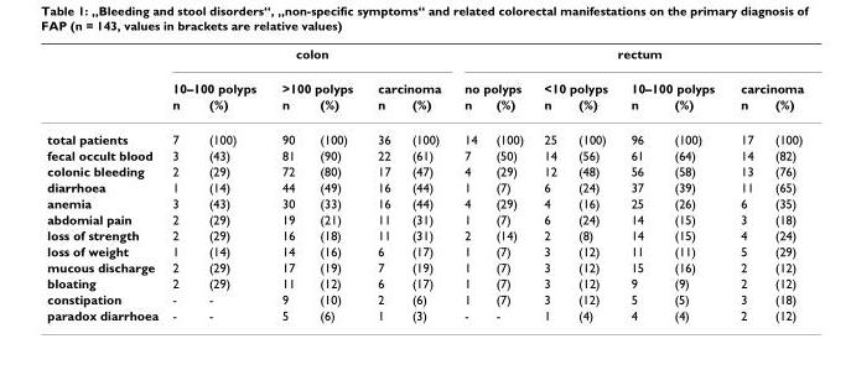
<table><thead><tr><td rowspan="3"></td><td colspan="6">colon</td><td colspan="8">rectum</td></tr><tr><td colspan="2">10–100 polyps</td><td colspan="2">&gt;100 polyps</td><td colspan="2">carcinoma</td><td colspan="2">no polyps</td><td colspan="2">&lt;10 polyps</td><td colspan="2">10–100 polyps</td><td colspan="2">carcinoma</td></tr><tr><td>n</td><td>(%)</td><td>n</td><td>(%)</td><td>n</td><td>(%)</td><td>n</td><td>(%)</td><td>n</td><td>(%)</td><td>n</td><td>(%)</td><td>n</td><td>(%)</td></tr></thead><tbody><tr><td>total patients</td><td>7</td><td>(100)</td><td>90</td><td>(100)</td><td>36</td><td>(100)</td><td>14</td><td>(100)</td><td>25</td><td>(100)</td><td>96</td><td>(100)</td><td>17</td><td>(100)</td></tr><tr><td>fecal occult blood</td><td>3</td><td>(43)</td><td>81</td><td>(90)</td><td>22</td><td>(61)</td><td>7</td><td>(50)</td><td>14</td><td>(56)</td><td>61</td><td>(64)</td><td>14</td><td>(82)</td></tr><tr><td>colonic bleeding</td><td>2</td><td>(29)</td><td>72</td><td>(80)</td><td>17</td><td>(47)</td><td>4</td><td>(29)</td><td>12</td><td>(48)</td><td>56</td><td>(58)</td><td>13</td><td>(76)</td></tr><tr><td>diarrhoea</td><td>1</td><td>(14)</td><td>44</td><td>(49)</td><td>16</td><td>(44)</td><td>1</td><td>(7)</td><td>6</td><td>(24)</td><td>37</td><td>(39)</td><td>11</td><td>(65)</td></tr><tr><td>anemia</td><td>3</td><td>(43)</td><td>30</td><td>(33)</td><td>16</td><td>(44)</td><td>4</td><td>(29)</td><td>4</td><td>(16)</td><td>25</td><td>(26)</td><td>6</td><td>(35)</td></tr><tr><td>abdomial pain</td><td>2</td><td>(29)</td><td>19</td><td>(21)</td><td>11</td><td>(31)</td><td>1</td><td>(7)</td><td>6</td><td>(24)</td><td>14</td><td>(15)</td><td>3</td><td>(18)</td></tr><tr><td>loss of strength</td><td>2</td><td>(29)</td><td>16</td><td>(18)</td><td>11</td><td>(31)</td><td>2</td><td>(14)</td><td>2</td><td>(8)</td><td>14</td><td>(15)</td><td>4</td><td>(24)</td></tr><tr><td>loss of weight</td><td>1</td><td>(14)</td><td>14</td><td>(16)</td><td>6</td><td>(17)</td><td>1</td><td>(7)</td><td>3</td><td>(12)</td><td>11</td><td>(11)</td><td>5</td><td>(29)</td></tr><tr><td>mucous discharge</td><td>2</td><td>(29)</td><td>17</td><td>(19)</td><td>7</td><td>(19)</td><td>1</td><td>(7)</td><td>3</td><td>(12)</td><td>15</td><td>(16)</td><td>2</td><td>(12)</td></tr><tr><td>bloating</td><td>2</td><td>(29)</td><td>11</td><td>(12)</td><td>6</td><td>(17)</td><td>1</td><td>(7)</td><td>3</td><td>(12)</td><td>9</td><td>(9)</td><td>2</td><td>(12)</td></tr><tr><td>constipation</td><td>-</td><td>-</td><td>9</td><td>(10)</td><td>2</td><td>(6)</td><td>1</td><td>(7)</td><td>3</td><td>(12)</td><td>5</td><td>(5)</td><td>3</td><td>(18)</td></tr><tr><td>paradox diarrhoea</td><td>-</td><td>-</td><td>5</td><td>(6)</td><td>1</td><td>(3)</td><td>-</td><td>-</td><td>1</td><td>(4)</td><td>4</td><td>(4)</td><td>2</td><td>(12)</td></tr></tbody></table>